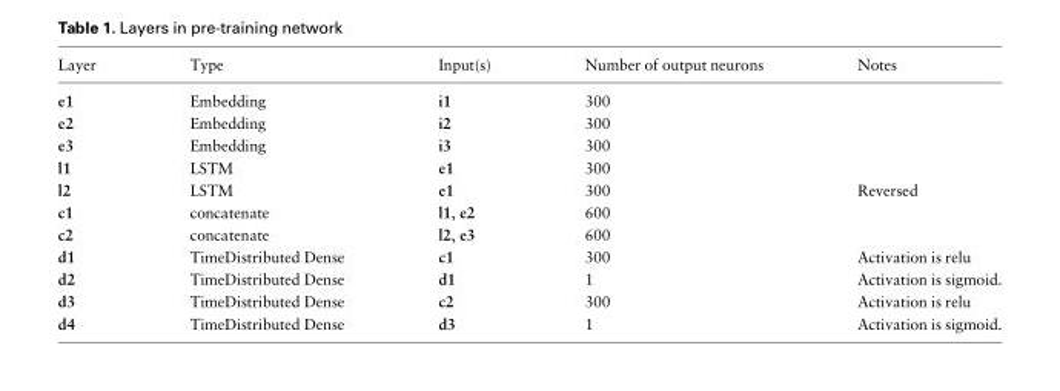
<table><thead><tr><td>Layer</td><td>Type</td><td>Input(s)</td><td>Number of output neurons</td><td>Notes</td></tr></thead><tbody><tr><td>e1</td><td>Embedding</td><td>i1</td><td>300</td><td></td></tr><tr><td>e2</td><td>Embedding</td><td>i2</td><td>300</td><td></td></tr><tr><td>e3</td><td>Embedding</td><td>i3</td><td>300</td><td></td></tr><tr><td>l1</td><td>LSTM</td><td>e1</td><td>300</td><td></td></tr><tr><td>l2</td><td>LSTM</td><td>e1</td><td>300</td><td>Reversed</td></tr><tr><td>c1</td><td>concatenate</td><td>l1, e2</td><td>600</td><td></td></tr><tr><td>c2</td><td>concatenate</td><td>l2, e3</td><td>600</td><td></td></tr><tr><td>d1</td><td>TimeDistributed Dense</td><td>c1</td><td>300</td><td>Activation is relu</td></tr><tr><td>d2</td><td>TimeDistributed Dense</td><td>d1</td><td>1</td><td>Activation is sigmoid.</td></tr><tr><td>d3</td><td>TimeDistributed Dense</td><td>c2</td><td>300</td><td>Activation is relu</td></tr><tr><td>d4</td><td>TimeDistributed Dense</td><td>d3</td><td>1</td><td>Activation is sigmoid.</td></tr></tbody></table>